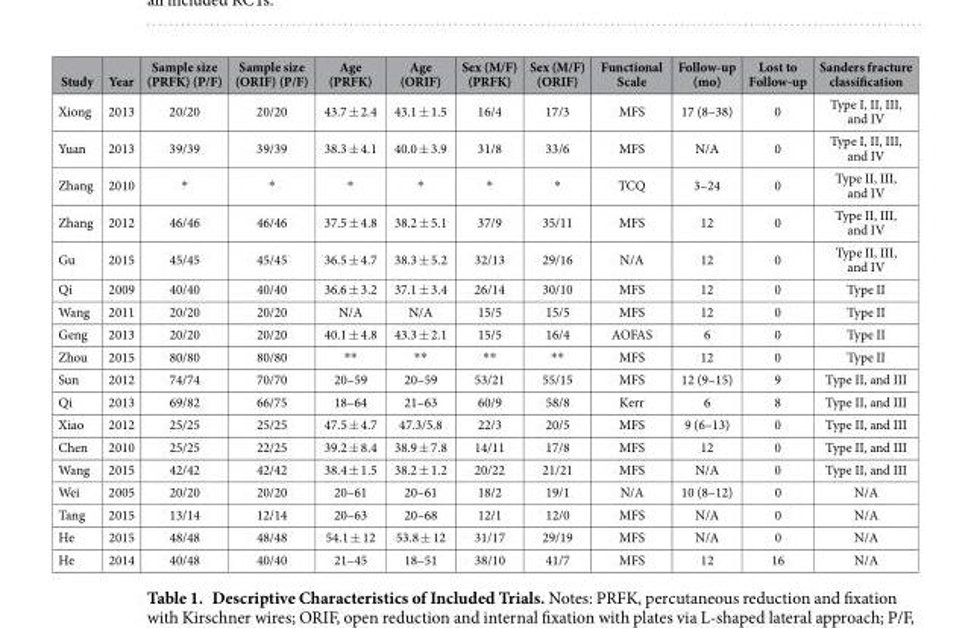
<table><thead><tr><td>Study</td><td>Year</td><td>Sample size (PRFK) (P/F)</td><td>Sample size (ORIF) (P/F)</td><td>Age (PRFK)</td><td>Age (ORIF)</td><td>Sex (M/F) (PRFK)</td><td>Sex (M/F) (ORIF)</td><td>Functional Scale</td><td>Follow-up (mo)</td><td>Lost to Follow-up</td><td>Sanders fracture classification</td></tr></thead><tbody><tr><td>Xiong</td><td>2013</td><td>20/20</td><td>20/20</td><td>43.7 ± 2.4</td><td>43.1 ± 1.5</td><td>16/4</td><td>17/3</td><td>MFS</td><td>17 (8–38)</td><td>0</td><td>Type I, II, III, and IV</td></tr><tr><td>Yuan</td><td>2013</td><td>39/39</td><td>39/39</td><td>38.3 ± 4.1</td><td>40.0 ± 3.9</td><td>31/8</td><td>33/6</td><td>MFS</td><td>N/A</td><td>0</td><td>Type I, II, III, and IV</td></tr><tr><td>Zhang</td><td>2010</td><td>*</td><td>*</td><td>*</td><td>*</td><td>*</td><td>*</td><td>TCQ</td><td>3–24</td><td>0</td><td>Type II, III, and IV</td></tr><tr><td>Zhang</td><td>2012</td><td>46/46</td><td>46/46</td><td>37.5 ± 4.8</td><td>38.2 ± 5.1</td><td>37/9</td><td>35/11</td><td>MFS</td><td>12</td><td>0</td><td>Type II, III, and IV</td></tr><tr><td>Gu</td><td>2015</td><td>45/45</td><td>45/45</td><td>36.5 ± 4.7</td><td>38.3 ± 5.2</td><td>32/13</td><td>29/16</td><td>N/A</td><td>12</td><td>0</td><td>Type II, III, and IV</td></tr><tr><td>Qi</td><td>2009</td><td>40/40</td><td>40/40</td><td>36.6 ± 3.2</td><td>37.1 ± 3.4</td><td>26/14</td><td>30/10</td><td>MFS</td><td>12</td><td>0</td><td>Type II</td></tr><tr><td>Wang</td><td>2011</td><td>20/20</td><td>20/20</td><td>N/A</td><td>N/A</td><td>15/5</td><td>15/5</td><td>MFS</td><td>12</td><td>0</td><td>Type II</td></tr><tr><td>Geng</td><td>2013</td><td>20/20</td><td>20/20</td><td>40.1 ± 4.8</td><td>43.3 ± 2.1</td><td>15/5</td><td>16/4</td><td>AOFAS</td><td>6</td><td>0</td><td>Type II</td></tr><tr><td>Zhou</td><td>2015</td><td>80/80</td><td>80/80</td><td>* *</td><td>* *</td><td>* *</td><td>* *</td><td>MFS</td><td>12</td><td>0</td><td>Type II</td></tr><tr><td>Sun</td><td>2012</td><td>74/74</td><td>70/70</td><td>20–59</td><td>20–59</td><td>53/21</td><td>55/15</td><td>MFS</td><td>12 (9–15)</td><td>9</td><td>Type II, and III</td></tr><tr><td>Qi</td><td>2013</td><td>69/82</td><td>66/75</td><td>18–64</td><td>21–63</td><td>60/9</td><td>58/8</td><td>Kerr</td><td>6</td><td>8</td><td>Type II, and III</td></tr><tr><td>Xiao</td><td>2012</td><td>25/25</td><td>25/25</td><td>47.5 ± 4.7</td><td>47.3/5.8</td><td>22/3</td><td>20/5</td><td>MFS</td><td>9 (6–13)</td><td>0</td><td>Type II, and III</td></tr><tr><td>Chen</td><td>2010</td><td>25/25</td><td>22/25</td><td>39.2 ± 8.4</td><td>38.9 ± 7.8</td><td>14/11</td><td>17/8</td><td>MFS</td><td>12</td><td>0</td><td>Type II, and III</td></tr><tr><td>Wang</td><td>2015</td><td>42/42</td><td>42/42</td><td>38.4 ± 1.5</td><td>38.2 ± 1.2</td><td>20/22</td><td>21/21</td><td>MFS</td><td>N/A</td><td>0</td><td>Type II, and III</td></tr><tr><td>Wei</td><td>2005</td><td>20/20</td><td>20/20</td><td>20–61</td><td>20–61</td><td>18/2</td><td>19/1</td><td>N/A</td><td>10 (8–12)</td><td>0</td><td>N/A</td></tr><tr><td>Tang</td><td>2015</td><td>13/14</td><td>12/14</td><td>20–63</td><td>20–68</td><td>12/1</td><td>12/0</td><td>MFS</td><td>N/A</td><td>0</td><td>N/A</td></tr><tr><td>He</td><td>2015</td><td>48/48</td><td>48/48</td><td>54.1 ± 12</td><td>53.8 ± 12</td><td>31/17</td><td>29/19</td><td>MFS</td><td>N/A</td><td>0</td><td>N/A</td></tr><tr><td>He</td><td>2014</td><td>40/48</td><td>40/40</td><td>21–45</td><td>18–51</td><td>38/10</td><td>41/7</td><td>MFS</td><td>12</td><td>16</td><td>N/A</td></tr></tbody></table>